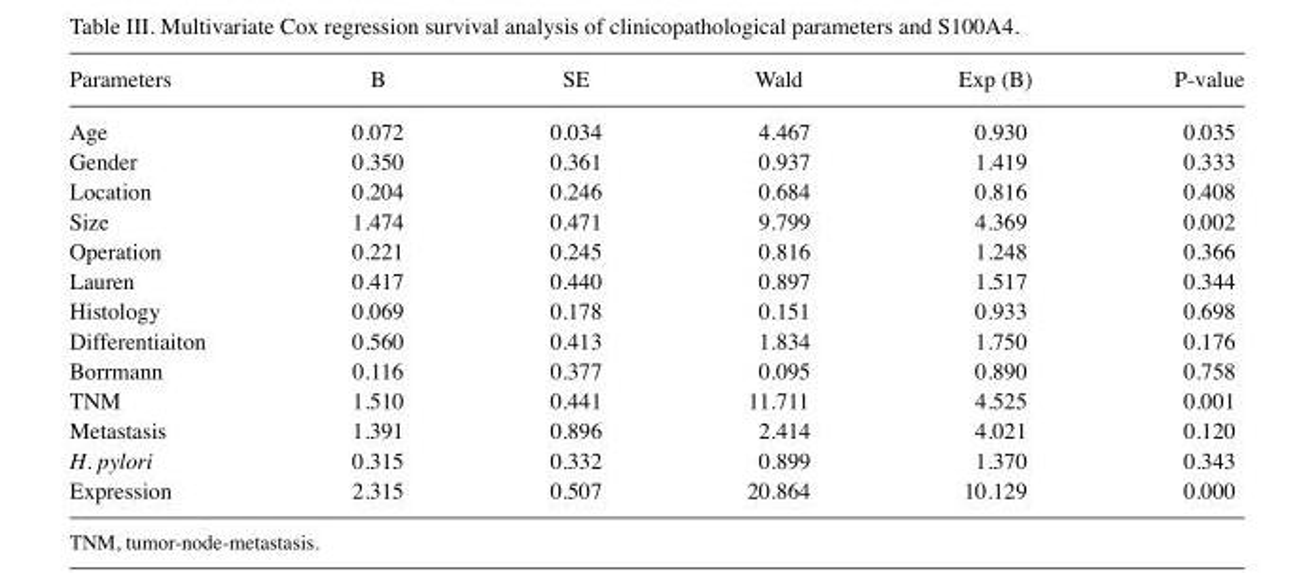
<table><thead><tr><td>Parameters</td><td>B</td><td>SE</td><td>Wald</td><td>Exp (B)</td><td>P-value</td></tr></thead><tbody><tr><td>Age</td><td>0.072</td><td>0.034</td><td>4.467</td><td>0.930</td><td>0.035</td></tr><tr><td>Gender</td><td>0.350</td><td>0.361</td><td>0.937</td><td>1.419</td><td>0.333</td></tr><tr><td>Location</td><td>0.204</td><td>0.246</td><td>0.684</td><td>0.816</td><td>0.408</td></tr><tr><td>Size</td><td>1.474</td><td>0.471</td><td>9.799</td><td>4.369</td><td>0.002</td></tr><tr><td>Operation</td><td>0.221</td><td>0.245</td><td>0.816</td><td>1.248</td><td>0.366</td></tr><tr><td>Lauren</td><td>0.417</td><td>0.440</td><td>0.897</td><td>1.517</td><td>0.344</td></tr><tr><td>Histology</td><td>0.069</td><td>0.178</td><td>0.151</td><td>0.933</td><td>0.698</td></tr><tr><td>Differentiaiton</td><td>0.560</td><td>0.413</td><td>1.834</td><td>1.750</td><td>0.176</td></tr><tr><td>Borrmann</td><td>0.116</td><td>0.377</td><td>0.095</td><td>0.890</td><td>0.758</td></tr><tr><td>TNM</td><td>1.510</td><td>0.441</td><td>11.711</td><td>4.525</td><td>0.001</td></tr><tr><td>Metastasis</td><td>1.391</td><td>0.896</td><td>2.414</td><td>4.021</td><td>0.120</td></tr><tr><td>H. pylori</td><td>0.315</td><td>0.332</td><td>0.899</td><td>1.370</td><td>0.343</td></tr><tr><td>Expression</td><td>2.315</td><td>0.507</td><td>20.864</td><td>10.129</td><td>0.000</td></tr></tbody></table>